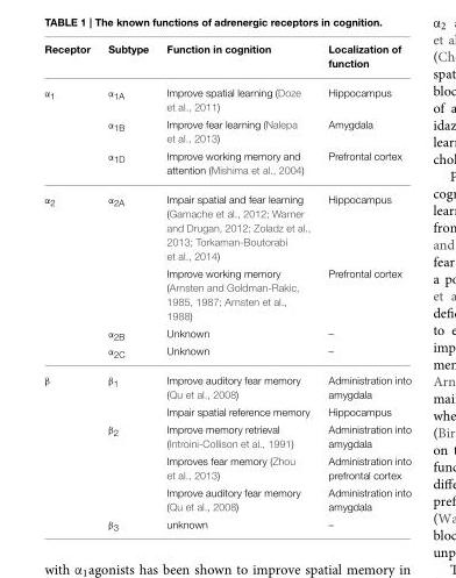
<table><thead><tr><td>Receptor</td><td>Subtype</td><td>Function in cognition</td><td>Localization of function</td></tr></thead><tbody><tr><td rowspan="3">α<sub>1</sub></td><td>α<sub>1A</sub></td><td>Improve spatial learning (Doze et al., 2011)</td><td>Hippocampus</td></tr><tr><td>α<sub>1B</sub></td><td>Improve fear learning (Nalepa et al., 2013)</td><td>Amygdala</td></tr><tr><td>α<sub>1D</sub></td><td>Improve working memory and attention (Mishima et al., 2004)</td><td>Prefrontal cortex</td></tr><tr><td rowspan="4">α<sub>2</sub></td><td>α<sub>2A</sub></td><td>Impair spatial and fear learning (Gamache et al., 2012; Warner and Drugan, 2012; Zoladz et al., 2013; Torkaman-Boutorabi et al., 2014)</td><td>Hippocampus</td></tr><tr><td></td><td>Improve working memory (Arnsten and Goldman-Rakic, 1985, 1987; Arnsten et al., 1988)</td><td>Prefrontal cortex</td></tr><tr><td>α<sub>2B</sub></td><td>Unknown</td><td>–</td></tr><tr><td>α<sub>2C</sub></td><td>Unknown</td><td>–</td></tr><tr><td rowspan="6">β</td><td>β<sub>1</sub></td><td>Improve auditory fear memory (Qu et al., 2008)</td><td>Administration into amygdala</td></tr><tr><td></td><td>Impair spatial reference memory</td><td>Hippocampus</td></tr><tr><td>β<sub>2</sub></td><td>Improve memory retrieval (Introini-Collison et al., 1991)</td><td>Administration into amygdala</td></tr><tr><td></td><td>Improves fear memory (Zhou et al., 2013)</td><td>Administration into prefrontal cortex</td></tr><tr><td></td><td>Improve auditory fear memory (Qu et al., 2008)</td><td>Administration into amygdala</td></tr><tr><td>β<sub>3</sub></td><td>unknown</td><td>–</td></tr></tbody></table>